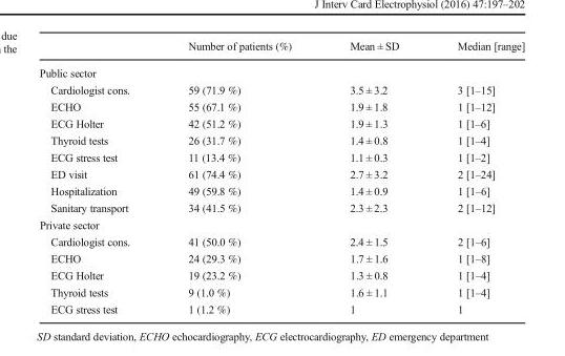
<table><thead><tr><td></td><td>Number of patients (%)</td><td>Mean ± SD</td><td>Median [range]</td></tr></thead><tbody><tr><td colspan="4">Public sector</td></tr><tr><td>Cardiologist cons.</td><td>59 (71.9 %)</td><td>3.5 ± 3.2</td><td>3 [1–15]</td></tr><tr><td>ECHO</td><td>55 (67.1 %)</td><td>1.9 ± 1.8</td><td>1 [1–12]</td></tr><tr><td>ECG Holter</td><td>42 (51.2 %)</td><td>1.9 ± 1.3</td><td>1 [1–6]</td></tr><tr><td>Thyroid tests</td><td>26 (31.7 %)</td><td>1.4 ± 0.8</td><td>1 [1–4]</td></tr><tr><td>ECG stress test</td><td>11 (13.4 %)</td><td>1.1 ± 0.3</td><td>1 [1–2]</td></tr><tr><td>ED visit</td><td>61 (74.4 %)</td><td>2.7 ± 3.2</td><td>2 [1–24]</td></tr><tr><td>Hospitalization</td><td>49 (59.8 %)</td><td>1.4 ± 0.9</td><td>1 [1–6]</td></tr><tr><td>Sanitary transport</td><td>34 (41.5 %)</td><td>2.3 ± 2.3</td><td>2 [1–12]</td></tr><tr><td colspan="4">Private sector</td></tr><tr><td>Cardiologist cons.</td><td>41 (50.0 %)</td><td>2.4 ± 1.5</td><td>2 [1–6]</td></tr><tr><td>ECHO</td><td>24 (29.3 %)</td><td>1.7 ± 1.6</td><td>1 [1–8]</td></tr><tr><td>ECG Holter</td><td>19 (23.2 %)</td><td>1.3 ± 0.8</td><td>1 [1–4]</td></tr><tr><td>Thyroid tests</td><td>9 (1.0 %)</td><td>1.6 ± 1.1</td><td>1 [1–4]</td></tr><tr><td>ECG stress test</td><td>1 (1.2 %)</td><td>1</td><td>1</td></tr></tbody></table>